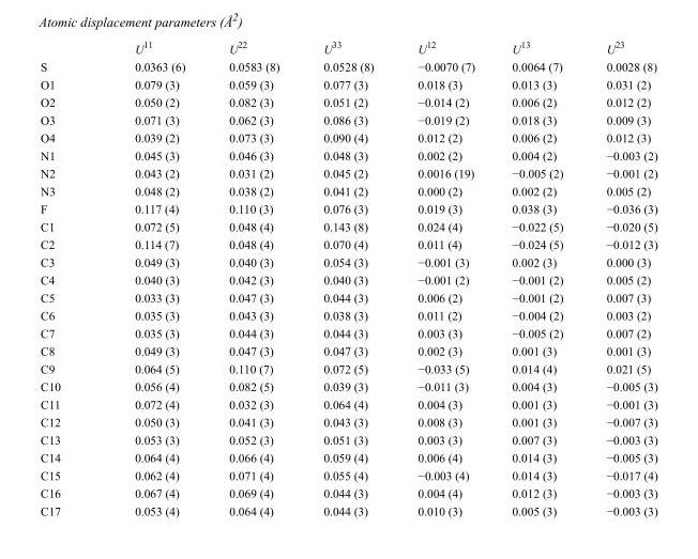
<table><thead><tr><td></td><td>U<sup>11</sup></td><td>U<sup>22</sup></td><td>U<sup>33</sup></td><td>U<sup>12</sup></td><td>U<sup>13</sup></td><td>U<sup>23</sup></td></tr></thead><tbody><tr><td>S</td><td>0.0363 (6)</td><td>0.0583 (8)</td><td>0.0528 (8)</td><td>−0.0070 (7)</td><td>0.0064 (7)</td><td>0.0028 (8)</td></tr><tr><td>O1</td><td>0.079 (3)</td><td>0.059 (3)</td><td>0.077 (3)</td><td>0.018 (3)</td><td>0.013 (3)</td><td>0.031 (2)</td></tr><tr><td>O2</td><td>0.050 (2)</td><td>0.082 (3)</td><td>0.051 (2)</td><td>−0.014 (2)</td><td>0.006 (2)</td><td>0.012 (2)</td></tr><tr><td>O3</td><td>0.071 (3)</td><td>0.062 (3)</td><td>0.086 (3)</td><td>−0.019 (2)</td><td>0.018 (3)</td><td>0.009 (3)</td></tr><tr><td>O4</td><td>0.039 (2)</td><td>0.073 (3)</td><td>0.090 (4)</td><td>0.012 (2)</td><td>0.006 (2)</td><td>0.012 (3)</td></tr><tr><td>N1</td><td>0.045 (3)</td><td>0.046 (3)</td><td>0.048 (3)</td><td>0.002 (2)</td><td>0.004 (2)</td><td>−0.003 (2)</td></tr><tr><td>N2</td><td>0.043 (2)</td><td>0.031 (2)</td><td>0.045 (2)</td><td>0.0016 (19)</td><td>−0.005 (2)</td><td>−0.001 (2)</td></tr><tr><td>N3</td><td>0.048 (2)</td><td>0.038 (2)</td><td>0.041 (2)</td><td>0.000 (2)</td><td>0.002 (2)</td><td>0.005 (2)</td></tr><tr><td>F</td><td>0.117 (4)</td><td>0.110 (3)</td><td>0.076 (3)</td><td>0.019 (3)</td><td>0.038 (3)</td><td>−0.036 (3)</td></tr><tr><td>C1</td><td>0.072 (5)</td><td>0.048 (4)</td><td>0.143 (8)</td><td>0.024 (4)</td><td>−0.022 (5)</td><td>−0.020 (5)</td></tr><tr><td>C2</td><td>0.114 (7)</td><td>0.048 (4)</td><td>0.070 (4)</td><td>0.011 (4)</td><td>−0.024 (5)</td><td>−0.012 (3)</td></tr><tr><td>C3</td><td>0.049 (3)</td><td>0.040 (3)</td><td>0.054 (3)</td><td>−0.001 (3)</td><td>0.002 (3)</td><td>0.000 (3)</td></tr><tr><td>C4</td><td>0.040 (3)</td><td>0.042 (3)</td><td>0.040 (3)</td><td>−0.001 (2)</td><td>−0.001 (2)</td><td>0.005 (2)</td></tr><tr><td>C5</td><td>0.033 (3)</td><td>0.047 (3)</td><td>0.044 (3)</td><td>0.006 (2)</td><td>−0.001 (2)</td><td>0.007 (3)</td></tr><tr><td>C6</td><td>0.035 (3)</td><td>0.043 (3)</td><td>0.038 (3)</td><td>0.011 (2)</td><td>−0.004 (2)</td><td>0.003 (2)</td></tr><tr><td>C7</td><td>0.035 (3)</td><td>0.044 (3)</td><td>0.044 (3)</td><td>0.003 (3)</td><td>−0.005 (2)</td><td>0.007 (2)</td></tr><tr><td>C8</td><td>0.049 (3)</td><td>0.047 (3)</td><td>0.047 (3)</td><td>0.002 (3)</td><td>0.001 (3)</td><td>0.001 (3)</td></tr><tr><td>C9</td><td>0.064 (5)</td><td>0.110 (7)</td><td>0.072 (5)</td><td>−0.033 (5)</td><td>0.014 (4)</td><td>0.021 (5)</td></tr><tr><td>C10</td><td>0.056 (4)</td><td>0.082 (5)</td><td>0.039 (3)</td><td>−0.011 (3)</td><td>0.004 (3)</td><td>−0.005 (3)</td></tr><tr><td>C11</td><td>0.072 (4)</td><td>0.032 (3)</td><td>0.064 (4)</td><td>0.004 (3)</td><td>0.001 (3)</td><td>−0.001 (3)</td></tr><tr><td>C12</td><td>0.050 (3)</td><td>0.041 (3)</td><td>0.043 (3)</td><td>0.008 (3)</td><td>0.001 (3)</td><td>−0.007 (3)</td></tr><tr><td>C13</td><td>0.053 (3)</td><td>0.052 (3)</td><td>0.051 (3)</td><td>0.003 (3)</td><td>0.007 (3)</td><td>−0.003 (3)</td></tr><tr><td>C14</td><td>0.064 (4)</td><td>0.066 (4)</td><td>0.059 (4)</td><td>0.006 (4)</td><td>0.014 (3)</td><td>−0.005 (3)</td></tr><tr><td>C15</td><td>0.062 (4)</td><td>0.071 (4)</td><td>0.055 (4)</td><td>−0.003 (4)</td><td>0.014 (3)</td><td>−0.017 (4)</td></tr><tr><td>C16</td><td>0.067 (4)</td><td>0.069 (4)</td><td>0.044 (3)</td><td>0.004 (4)</td><td>0.012 (3)</td><td>−0.003 (3)</td></tr><tr><td>C17</td><td>0.053 (4)</td><td>0.064 (4)</td><td>0.044 (3)</td><td>0.010 (3)</td><td>0.005 (3)</td><td>−0.003 (3)</td></tr></tbody></table>